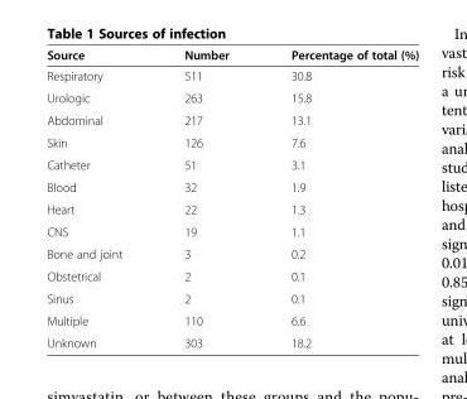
<table><thead><tr><td>Source</td><td>Number</td><td>Percentage of total (%)</td></tr></thead><tbody><tr><td>Respiratory</td><td>511</td><td>30.8</td></tr><tr><td>Urologic</td><td>263</td><td>15.8</td></tr><tr><td>Abdominal</td><td>217</td><td>13.1</td></tr><tr><td>Skin</td><td>126</td><td>7.6</td></tr><tr><td>Catheter</td><td>51</td><td>3.1</td></tr><tr><td>Blood</td><td>32</td><td>1.9</td></tr><tr><td>Heart</td><td>22</td><td>1.3</td></tr><tr><td>CNS</td><td>19</td><td>1.1</td></tr><tr><td>Bone and joint</td><td>3</td><td>0.2</td></tr><tr><td>Obstetrical</td><td>2</td><td>0.1</td></tr><tr><td>Sinus</td><td>2</td><td>0.1</td></tr><tr><td>Multiple</td><td>110</td><td>6.6</td></tr><tr><td>Unknown</td><td>303</td><td>18.2</td></tr></tbody></table>